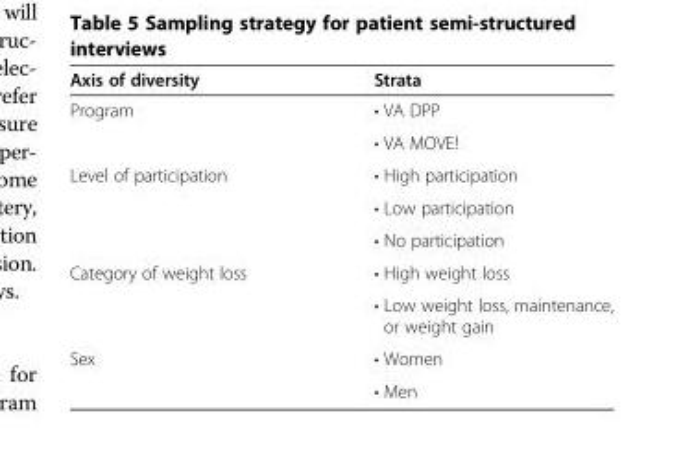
<table><thead><tr><td>Axis of diversity</td><td>Strata</td></tr></thead><tbody><tr><td rowspan="2">Program</td><td>• VA DPP</td></tr><tr><td>• VA MOVE!</td></tr><tr><td rowspan="3">Level of participation</td><td>• High participation</td></tr><tr><td>• Low participation</td></tr><tr><td>• No participation</td></tr><tr><td rowspan="2">Category of weight loss</td><td>• High weight loss</td></tr><tr><td>• Low weight loss, maintenance, or weight gain</td></tr><tr><td rowspan="2">Sex</td><td>• Women</td></tr><tr><td>• Men</td></tr></tbody></table>